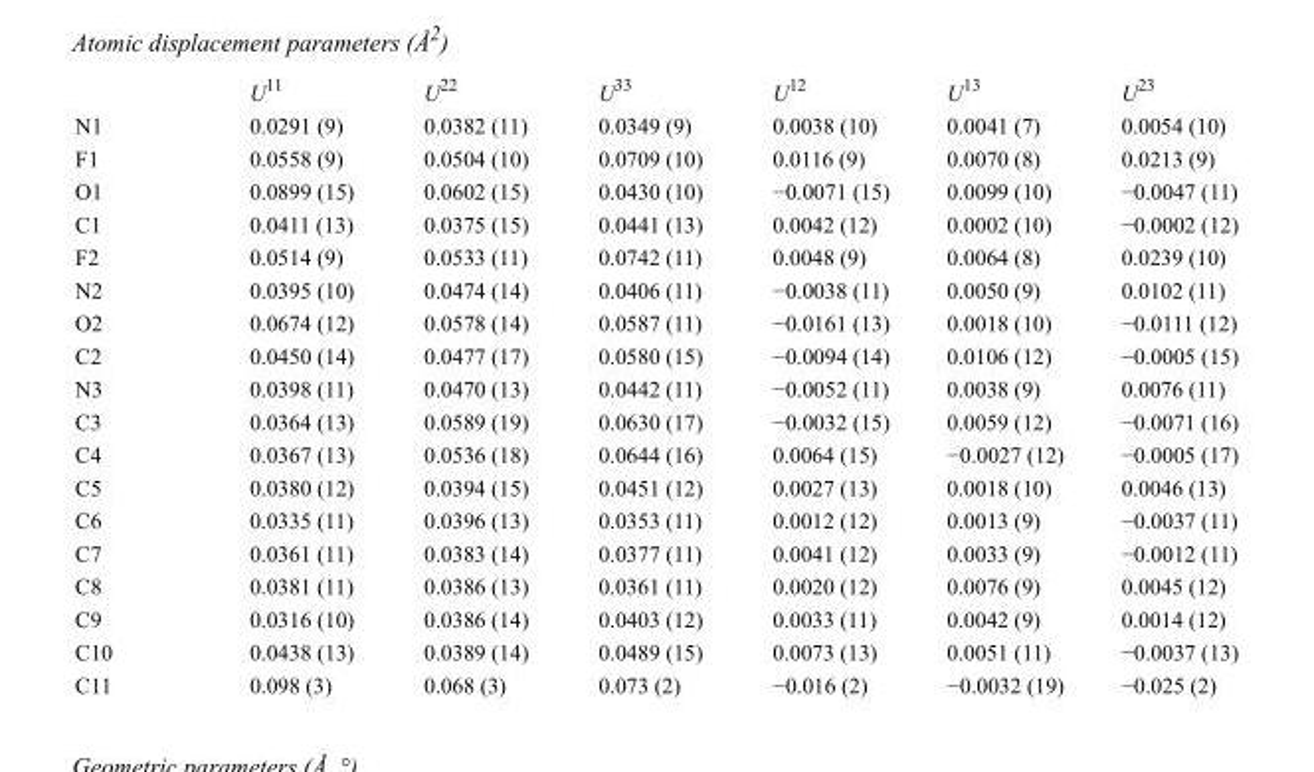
<table><thead><tr><td></td><td>U<sup>11</sup></td><td>U<sup>22</sup></td><td>U<sup>33</sup></td><td>U<sup>12</sup></td><td>U<sup>13</sup></td><td>U<sup>23</sup></td></tr></thead><tbody><tr><td>N1</td><td>0.0291 (9)</td><td>0.0382 (11)</td><td>0.0349 (9)</td><td>0.0038 (10)</td><td>0.0041 (7)</td><td>0.0054 (10)</td></tr><tr><td>F1</td><td>0.0558 (9)</td><td>0.0504 (10)</td><td>0.0709 (10)</td><td>0.0116 (9)</td><td>0.0070 (8)</td><td>0.0213 (9)</td></tr><tr><td>O1</td><td>0.0899 (15)</td><td>0.0602 (15)</td><td>0.0430 (10)</td><td>−0.0071 (15)</td><td>0.0099 (10)</td><td>−0.0047 (11)</td></tr><tr><td>C1</td><td>0.0411 (13)</td><td>0.0375 (15)</td><td>0.0441 (13)</td><td>0.0042 (12)</td><td>0.0002 (10)</td><td>−0.0002 (12)</td></tr><tr><td>F2</td><td>0.0514 (9)</td><td>0.0533 (11)</td><td>0.0742 (11)</td><td>0.0048 (9)</td><td>0.0064 (8)</td><td>0.0239 (10)</td></tr><tr><td>N2</td><td>0.0395 (10)</td><td>0.0474 (14)</td><td>0.0406 (11)</td><td>−0.0038 (11)</td><td>0.0050 (9)</td><td>0.0102 (11)</td></tr><tr><td>O2</td><td>0.0674 (12)</td><td>0.0578 (14)</td><td>0.0587 (11)</td><td>−0.0161 (13)</td><td>0.0018 (10)</td><td>−0.0111 (12)</td></tr><tr><td>C2</td><td>0.0450 (14)</td><td>0.0477 (17)</td><td>0.0580 (15)</td><td>−0.0094 (14)</td><td>0.0106 (12)</td><td>−0.0005 (15)</td></tr><tr><td>N3</td><td>0.0398 (11)</td><td>0.0470 (13)</td><td>0.0442 (11)</td><td>−0.0052 (11)</td><td>0.0038 (9)</td><td>0.0076 (11)</td></tr><tr><td>C3</td><td>0.0364 (13)</td><td>0.0589 (19)</td><td>0.0630 (17)</td><td>−0.0032 (15)</td><td>0.0059 (12)</td><td>−0.0071 (16)</td></tr><tr><td>C4</td><td>0.0367 (13)</td><td>0.0536 (18)</td><td>0.0644 (16)</td><td>0.0064 (15)</td><td>−0.0027 (12)</td><td>−0.0005 (17)</td></tr><tr><td>C5</td><td>0.0380 (12)</td><td>0.0394 (15)</td><td>0.0451 (12)</td><td>0.0027 (13)</td><td>0.0018 (10)</td><td>0.0046 (13)</td></tr><tr><td>C6</td><td>0.0335 (11)</td><td>0.0396 (13)</td><td>0.0353 (11)</td><td>0.0012 (12)</td><td>0.0013 (9)</td><td>−0.0037 (11)</td></tr><tr><td>C7</td><td>0.0361 (11)</td><td>0.0383 (14)</td><td>0.0377 (11)</td><td>0.0041 (12)</td><td>0.0033 (9)</td><td>−0.0012 (11)</td></tr><tr><td>C8</td><td>0.0381 (11)</td><td>0.0386 (13)</td><td>0.0361 (11)</td><td>0.0020 (12)</td><td>0.0076 (9)</td><td>0.0045 (12)</td></tr><tr><td>C9</td><td>0.0316 (10)</td><td>0.0386 (14)</td><td>0.0403 (12)</td><td>0.0033 (11)</td><td>0.0042 (9)</td><td>0.0014 (12)</td></tr><tr><td>C10</td><td>0.0438 (13)</td><td>0.0389 (14)</td><td>0.0489 (15)</td><td>0.0073 (13)</td><td>0.0051 (11)</td><td>−0.0037 (13)</td></tr><tr><td>C11</td><td>0.098 (3)</td><td>0.068 (3)</td><td>0.073 (2)</td><td>−0.016 (2)</td><td>−0.0032 (19)</td><td>−0.025 (2)</td></tr></tbody></table>